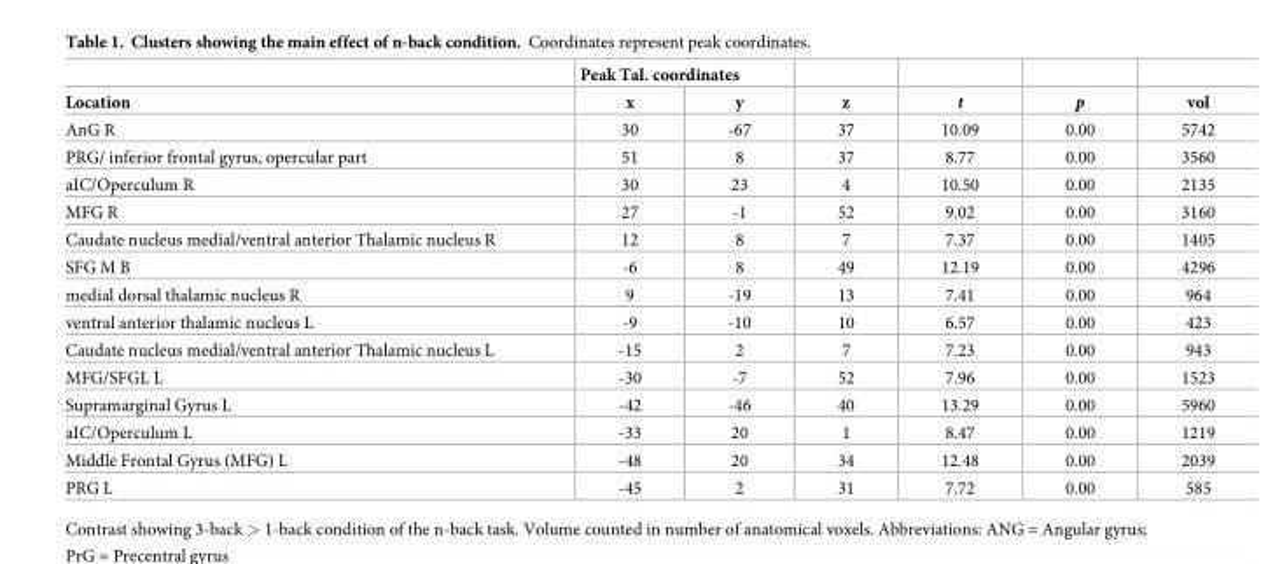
<table><thead><tr><td rowspan="2">Location</td><td colspan="2">Peak Tal. coordinates</td><td rowspan="2">z</td><td rowspan="2">t</td><td rowspan="2">p</td><td rowspan="2">vol</td></tr><tr><td>x</td><td>y</td></tr></thead><tbody><tr><td>AnG R</td><td>30</td><td>-67</td><td>37</td><td>10.09</td><td>0.00</td><td>5742</td></tr><tr><td>PRG/ inferior frontal gyrus, opercular part</td><td>51</td><td>8</td><td>37</td><td>8.77</td><td>0.00</td><td>3560</td></tr><tr><td>aIC/Operculum R</td><td>30</td><td>23</td><td>4</td><td>10.50</td><td>0.00</td><td>2135</td></tr><tr><td>MFG R</td><td>27</td><td>-1</td><td>52</td><td>9.02</td><td>0.00</td><td>3160</td></tr><tr><td>Caudate nucleus medial/ventral anterior Thalamic nucleus R</td><td>12</td><td>8</td><td>7</td><td>7.37</td><td>0.00</td><td>1405</td></tr><tr><td>SFG M B</td><td>-6</td><td>8</td><td>49</td><td>12.19</td><td>0.00</td><td>4296</td></tr><tr><td>medial dorsal thalamic nucleus R</td><td>9</td><td>-19</td><td>13</td><td>7.41</td><td>0.00</td><td>964</td></tr><tr><td>ventral anterior thalamic nucleus L</td><td>-9</td><td>-10</td><td>10</td><td>6.57</td><td>0.00</td><td>423</td></tr><tr><td>Caudate nucleus medial/ventral anterior Thalamic nucleus L</td><td>-15</td><td>2</td><td>7</td><td>7.23</td><td>0.00</td><td>943</td></tr><tr><td>MFG/SFGL L</td><td>-30</td><td>-7</td><td>52</td><td>7.96</td><td>0.00</td><td>1523</td></tr><tr><td>Supramarginal Gyrus L</td><td>-42</td><td>-46</td><td>40</td><td>13.29</td><td>0.00</td><td>5960</td></tr><tr><td>aIC/Operculum L</td><td>-33</td><td>20</td><td>1</td><td>8.47</td><td>0.00</td><td>1219</td></tr><tr><td>Middle Frontal Gyrus (MFG) L</td><td>-48</td><td>20</td><td>34</td><td>12.48</td><td>0.00</td><td>2039</td></tr><tr><td>PRG L</td><td>-45</td><td>2</td><td>31</td><td>7.72</td><td>0.00</td><td>585</td></tr></tbody></table>